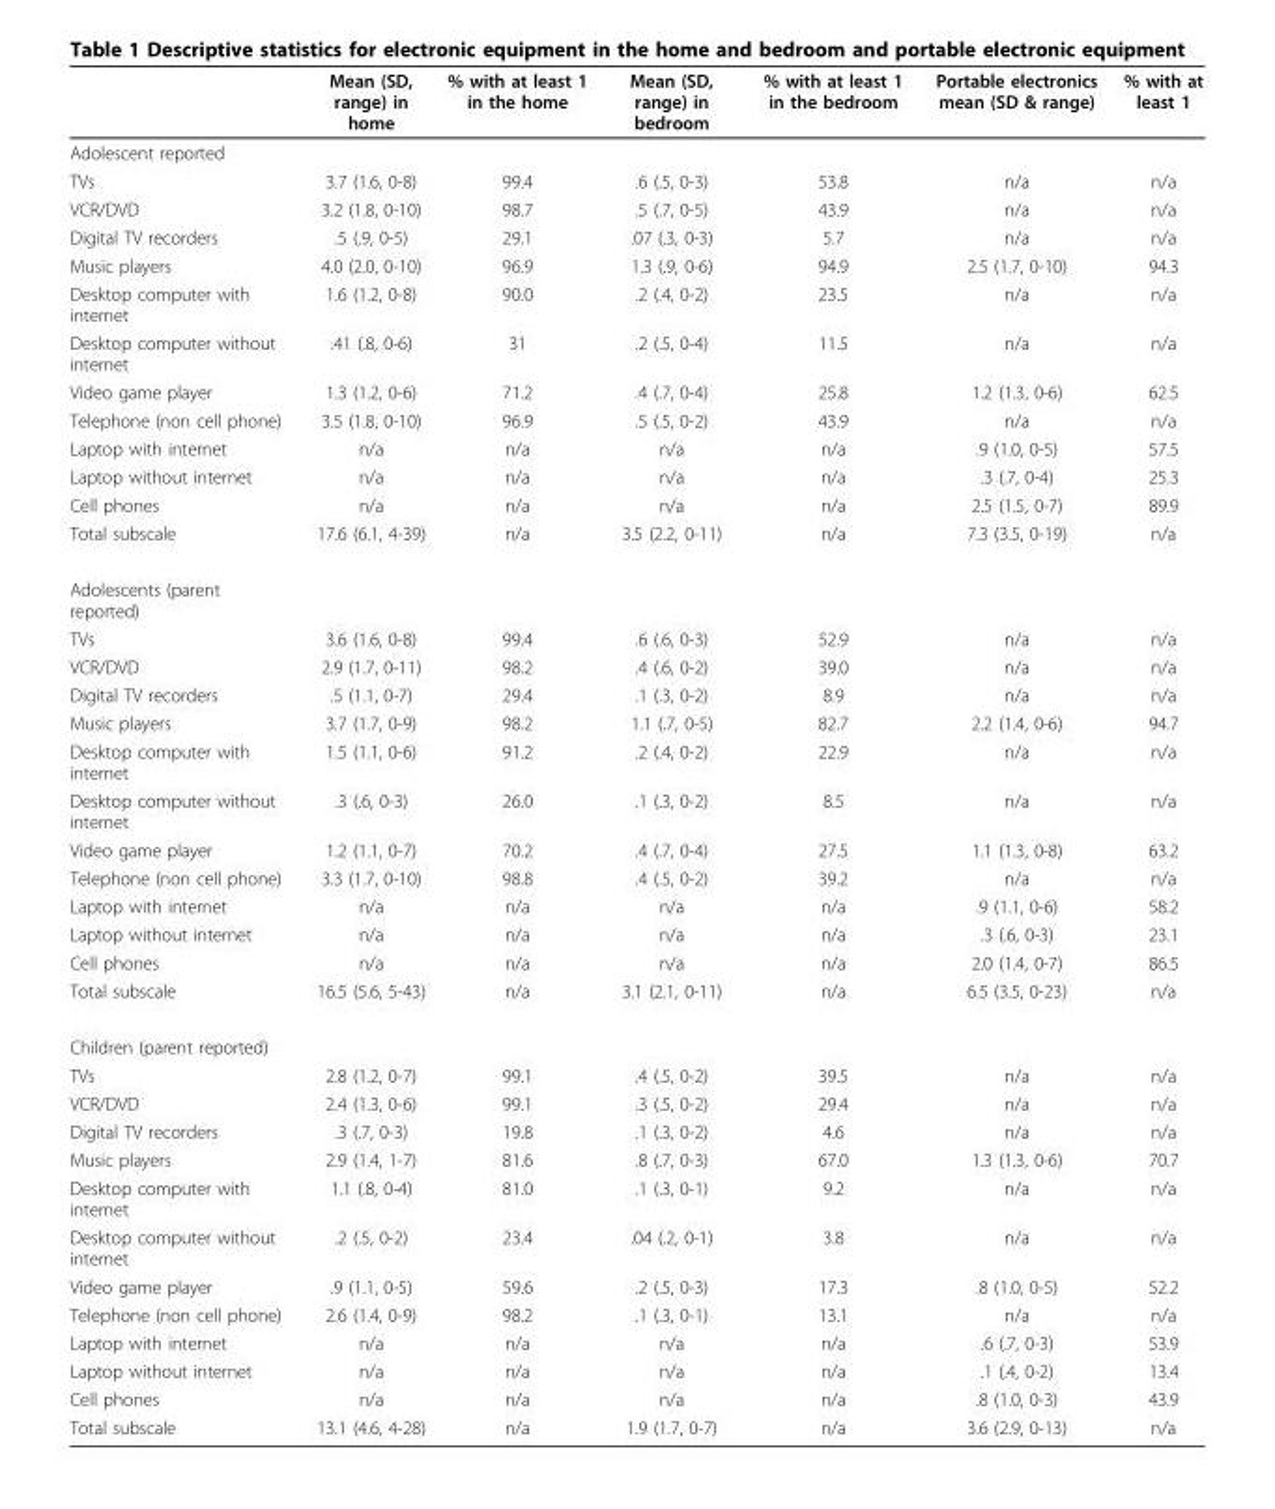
<table><thead><tr><td></td><td>Mean (SD, range) in home</td><td>% with at least 1 in the home</td><td>Mean (SD, range) in bedroom</td><td>% with at least 1 in the bedroom</td><td>Portable electronics mean (SD &amp; range)</td><td>% with at least 1</td></tr></thead><tbody><tr><td colspan="7">Adolescent reported</td></tr><tr><td>TVs</td><td>3.7 (1.6, 0-8)</td><td>99.4</td><td>.6 (.5, 0-3)</td><td>53.8</td><td>n/a</td><td>n/a</td></tr><tr><td>VCR/DVD</td><td>3.2 (1.8, 0-10)</td><td>98.7</td><td>.5 (.7, 0-5)</td><td>43.9</td><td>n/a</td><td>n/a</td></tr><tr><td>Digital TV recorders</td><td>.5 (.9, 0-5)</td><td>29.1</td><td>.07 (.3, 0-3)</td><td>5.7</td><td>n/a</td><td>n/a</td></tr><tr><td>Music players</td><td>4.0 (2.0, 0-10)</td><td>96.9</td><td>1.3 (.9, 0-6)</td><td>94.9</td><td>2.5 (1.7, 0-10)</td><td>94.3</td></tr><tr><td>Desktop computer with internet</td><td>1.6 (1.2, 0-8)</td><td>90.0</td><td>.2 (.4, 0-2)</td><td>23.5</td><td>n/a</td><td>n/a</td></tr><tr><td>Desktop computer without internet</td><td>.41 (.8, 0-6)</td><td>31</td><td>.2 (.5, 0-4)</td><td>11.5</td><td>n/a</td><td>n/a</td></tr><tr><td>Video game player</td><td>1.3 (1.2, 0-6)</td><td>71.2</td><td>.4 (.7, 0-4)</td><td>25.8</td><td>1.2 (1.3, 0-6)</td><td>62.5</td></tr><tr><td>Telephone (non cell phone)</td><td>3.5 (1.8, 0-10)</td><td>96.9</td><td>.5 (.5, 0-2)</td><td>43.9</td><td>n/a</td><td>n/a</td></tr><tr><td>Laptop with internet</td><td>n/a</td><td>n/a</td><td>n/a</td><td>n/a</td><td>.9 (1.0, 0-5)</td><td>57.5</td></tr><tr><td>Laptop without internet</td><td>n/a</td><td>n/a</td><td>n/a</td><td>n/a</td><td>.3 (.7, 0-4)</td><td>25.3</td></tr><tr><td>Cell phones</td><td>n/a</td><td>n/a</td><td>n/a</td><td>n/a</td><td>2.5 (1.5, 0-7)</td><td>89.9</td></tr><tr><td>Total subscale</td><td>17.6 (6.1, 4-39)</td><td>n/a</td><td>3.5 (2.2, 0-11)</td><td>n/a</td><td>7.3 (3.5, 0-19)</td><td>n/a</td></tr><tr><td colspan="7">Adolescents (parent reported)</td></tr><tr><td>TVs</td><td>3.6 (1.6, 0-8)</td><td>99.4</td><td>.6 (.6, 0-3)</td><td>52.9</td><td>n/a</td><td>n/a</td></tr><tr><td>VCR/DVD</td><td>2.9 (1.7, 0-11)</td><td>98.2</td><td>.4 (.6, 0-2)</td><td>39.0</td><td>n/a</td><td>n/a</td></tr><tr><td>Digital TV recorders</td><td>.5 (1.1, 0-7)</td><td>29.4</td><td>.1 (.3, 0-2)</td><td>8.9</td><td>n/a</td><td>n/a</td></tr><tr><td>Music players</td><td>3.7 (1.7, 0-9)</td><td>98.2</td><td>1.1 (.7, 0-5)</td><td>82.7</td><td>2.2 (1.4, 0-6)</td><td>94.7</td></tr><tr><td>Desktop computer with internet</td><td>1.5 (1.1, 0-6)</td><td>91.2</td><td>.2 (.4, 0-2)</td><td>22.9</td><td>n/a</td><td>n/a</td></tr><tr><td>Desktop computer without internet</td><td>.3 (.6, 0-3)</td><td>26.0</td><td>.1 (.3, 0-2)</td><td>8.5</td><td>n/a</td><td>n/a</td></tr><tr><td>Video game player</td><td>1.2 (1.1, 0-7)</td><td>70.2</td><td>.4 (.7, 0-4)</td><td>27.5</td><td>1.1 (1.3, 0-8)</td><td>63.2</td></tr><tr><td>Telephone (non cell phone)</td><td>3.3 (1.7, 0-10)</td><td>98.8</td><td>.4 (.5, 0-2)</td><td>39.2</td><td>n/a</td><td>n/a</td></tr><tr><td>Laptop with internet</td><td>n/a</td><td>n/a</td><td>n/a</td><td>n/a</td><td>.9 (1.1, 0-6)</td><td>58.2</td></tr><tr><td>Laptop without internet</td><td>n/a</td><td>n/a</td><td>n/a</td><td>n/a</td><td>.3 (.6, 0-3)</td><td>23.1</td></tr><tr><td>Cell phones</td><td>n/a</td><td>n/a</td><td>n/a</td><td>n/a</td><td>2.0 (1.4, 0-7)</td><td>86.5</td></tr><tr><td>Total subscale</td><td>16.5 (5.6, 5-43)</td><td>n/a</td><td>3.1 (2.1, 0-11)</td><td>n/a</td><td>6.5 (3.5, 0-23)</td><td>n/a</td></tr><tr><td colspan="7">Children (parent reported)</td></tr><tr><td>TVs</td><td>2.8 (1.2, 0-7)</td><td>99.1</td><td>.4 (.5, 0-2)</td><td>39.5</td><td>n/a</td><td>n/a</td></tr><tr><td>VCR/DVD</td><td>2.4 (1.3, 0-6)</td><td>99.1</td><td>.3 (.5, 0-2)</td><td>29.4</td><td>n/a</td><td>n/a</td></tr><tr><td>Digital TV recorders</td><td>.3 (.7, 0-3)</td><td>19.8</td><td>.1 (.3, 0-2)</td><td>4.6</td><td>n/a</td><td>n/a</td></tr><tr><td>Music players</td><td>2.9 (1.4, 1-7)</td><td>81.6</td><td>.8 (.7, 0-3)</td><td>67.0</td><td>1.3 (1.3, 0-6)</td><td>70.7</td></tr><tr><td>Desktop computer with internet</td><td>1.1 (.8, 0-4)</td><td>81.0</td><td>.1 (.3, 0-1)</td><td>9.2</td><td>n/a</td><td>n/a</td></tr><tr><td>Desktop computer without internet</td><td>.2 (.5, 0-2)</td><td>23.4</td><td>.04 (.2, 0-1)</td><td>3.8</td><td>n/a</td><td>n/a</td></tr><tr><td>Video game player</td><td>.9 (1.1, 0-5)</td><td>59.6</td><td>.2 (.5, 0-3)</td><td>17.3</td><td>.8 (1.0, 0-5)</td><td>52.2</td></tr><tr><td>Telephone (non cell phone)</td><td>2.6 (1.4, 0-9)</td><td>98.2</td><td>.1 (.3, 0-1)</td><td>13.1</td><td>n/a</td><td>n/a</td></tr><tr><td>Laptop with internet</td><td>n/a</td><td>n/a</td><td>n/a</td><td>n/a</td><td>.6 (.7, 0-3)</td><td>53.9</td></tr><tr><td>Laptop without internet</td><td>n/a</td><td>n/a</td><td>n/a</td><td>n/a</td><td>.1 (.4, 0-2)</td><td>13.4</td></tr><tr><td>Cell phones</td><td>n/a</td><td>n/a</td><td>n/a</td><td>n/a</td><td>.8 (1.0, 0-3)</td><td>43.9</td></tr><tr><td>Total subscale</td><td>13.1 (4.6, 4-28)</td><td>n/a</td><td>1.9 (1.7, 0-7)</td><td>n/a</td><td>3.6 (2.9, 0-13)</td><td>n/a</td></tr></tbody></table>